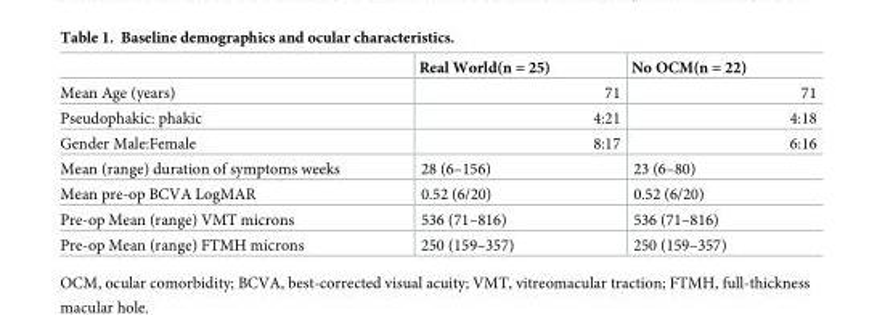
<table><thead><tr><td></td><td>Real World(n = 25)</td><td>No OCM(n = 22)</td></tr></thead><tbody><tr><td>Mean Age (years)</td><td>71</td><td>71</td></tr><tr><td>Pseudophakic: phakic</td><td>4:21</td><td>4:18</td></tr><tr><td>Gender Male:Female</td><td>8:17</td><td>6:16</td></tr><tr><td>Mean (range) duration of symptoms weeks</td><td>28 (6–156)</td><td>23 (6–80)</td></tr><tr><td>Mean pre-op BCVA LogMAR</td><td>0.52 (6/20)</td><td>0.52 (6/20)</td></tr><tr><td>Pre-op Mean (range) VMT microns</td><td>536 (71–816)</td><td>536 (71–816)</td></tr><tr><td>Pre-op Mean (range) FTMH microns</td><td>250 (159–357)</td><td>250 (159–357)</td></tr></tbody></table>